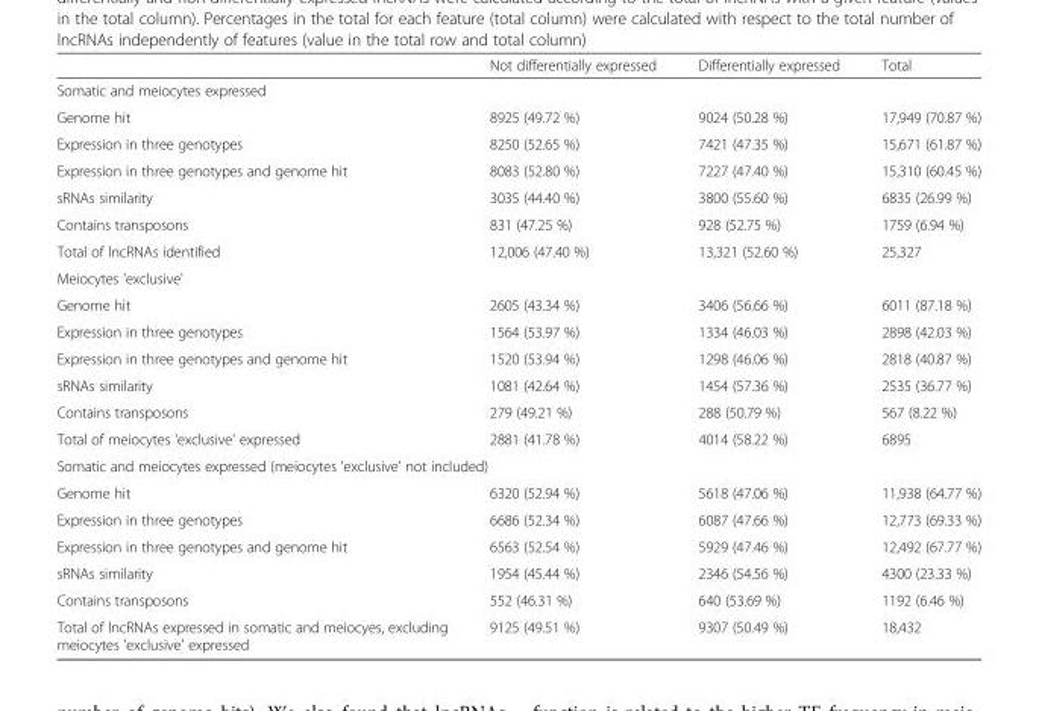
<table><thead><tr><td></td><td>Not differentially expressed</td><td>Differentially expressed</td><td>Total</td></tr></thead><tbody><tr><td colspan="4">Somatic and meiocytes expressed</td></tr><tr><td>Genome hit</td><td>8925 (49.72 %)</td><td>9024 (50.28 %)</td><td>17,949 (70.87 %)</td></tr><tr><td>Expression in three genotypes</td><td>8250 (52.65 %)</td><td>7421 (47.35 %)</td><td>15,671 (61.87 %)</td></tr><tr><td>Expression in three genotypes and genome hit</td><td>8083 (52.80 %)</td><td>7227 (47.40 %)</td><td>15,310 (60.45 %)</td></tr><tr><td>sRNAs similarity</td><td>3035 (44.40 %)</td><td>3800 (55.60 %)</td><td>6835 (26.99 %)</td></tr><tr><td>Contains transposons</td><td>831 (47.25 %)</td><td>928 (52.75 %)</td><td>1759 (6.94 %)</td></tr><tr><td>Total of lncRNAs identified</td><td>12,006 (47.40 %)</td><td>13,321 (52.60 %)</td><td>25,327</td></tr><tr><td colspan="4">Meiocytes &#x27;exclusive&#x27;</td></tr><tr><td>Genome hit</td><td>2605 (43.34 %)</td><td>3406 (56.66 %)</td><td>6011 (87.18 %)</td></tr><tr><td>Expression in three genotypes</td><td>1564 (53.97 %)</td><td>1334 (46.03 %)</td><td>2898 (42.03 %)</td></tr><tr><td>Expression in three genotypes and genome hit</td><td>1520 (53.94 %)</td><td>1298 (46.06 %)</td><td>2818 (40.87 %)</td></tr><tr><td>sRNAs similarity</td><td>1081 (42.64 %)</td><td>1454 (57.36 %)</td><td>2535 (36.77 %)</td></tr><tr><td>Contains transposons</td><td>279 (49.21 %)</td><td>288 (50.79 %)</td><td>567 (8.22 %)</td></tr><tr><td>Total of meiocytes &#x27;exclusive&#x27; expressed</td><td>2881 (41.78 %)</td><td>4014 (58.22 %)</td><td>6895</td></tr><tr><td colspan="4">Somatic and meiocytes expressed (meiocytes &#x27;exclusive&#x27; not included)</td></tr><tr><td>Genome hit</td><td>6320 (52.94 %)</td><td>5618 (47.06 %)</td><td>11,938 (64.77 %)</td></tr><tr><td>Expression in three genotypes</td><td>6686 (52.34 %)</td><td>6087 (47.66 %)</td><td>12,773 (69.33 %)</td></tr><tr><td>Expression in three genotypes and genome hit</td><td>6563 (52.54 %)</td><td>5929 (47.46 %)</td><td>12,492 (67.77 %)</td></tr><tr><td>sRNAs similarity</td><td>1954 (45.44 %)</td><td>2346 (54.56 %)</td><td>4300 (23.33 %)</td></tr><tr><td>Contains transposons</td><td>552 (46.31 %)</td><td>640 (53.69 %)</td><td>1192 (6.46 %)</td></tr><tr><td>Total of lncRNAs expressed in somatic and meiocyes, excluding meiocytes &#x27;exclusive&#x27; expressed</td><td>9125 (49.51 %)</td><td>9307 (50.49 %)</td><td>18,432</td></tr></tbody></table>